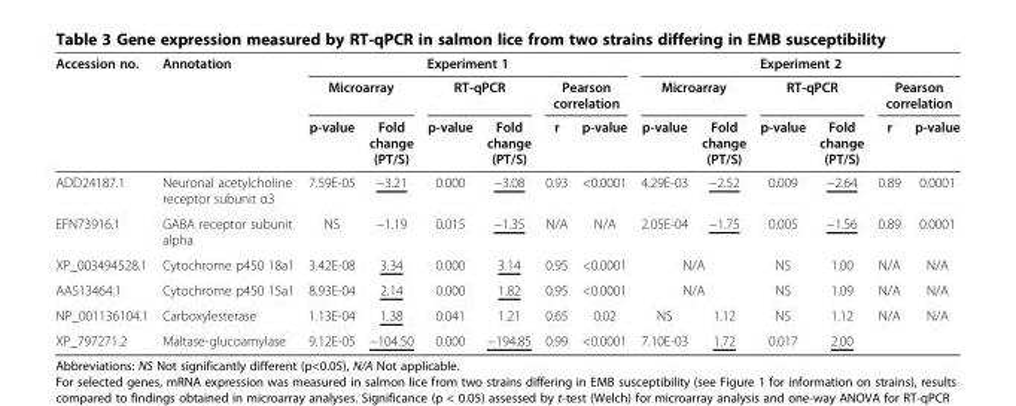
<table><thead><tr><td rowspan="3">Accession no.</td><td rowspan="3">Annotation</td><td colspan="6">Experiment 1</td><td colspan="6">Experiment 2</td></tr><tr><td colspan="2">Microarray</td><td colspan="2">RT-qPCR</td><td colspan="2">Pearson correlation</td><td colspan="2">Microarray</td><td colspan="2">RT-qPCR</td><td colspan="2">Pearson correlation</td></tr><tr><td>p-value</td><td>Fold change (PT/S)</td><td>p-value</td><td>Fold change (PT/S)</td><td>r</td><td>p-value</td><td>p-value</td><td>Fold change (PT/S)</td><td>p-value</td><td>Fold change (PT/S)</td><td>r</td><td>p-value</td></tr></thead><tbody><tr><td>ADD24187.1</td><td>Neuronal acetylcholine receptor subunit α3</td><td>7.59E-05</td><td>−3.21</td><td>0.000</td><td>−3.08</td><td>0.93</td><td>&lt;0.0001</td><td>4.29E-03</td><td>−2.52</td><td>0.009</td><td>−2.64</td><td>0.89</td><td>0.0001</td></tr><tr><td>EFN73916.1</td><td>GABA receptor subunit alpha</td><td>NS</td><td>−1.19</td><td>0.015</td><td>−1.35</td><td>N/A</td><td>N/A</td><td>2.05E-04</td><td>−1.75</td><td>0.005</td><td>−1.56</td><td>0.89</td><td>0.0001</td></tr><tr><td>XP_003494528.1</td><td>Cytochrome p450 18a1</td><td>3.42E-08</td><td>3.34</td><td>0.000</td><td>3.14</td><td>0.95</td><td>&lt;0.0001</td><td colspan="2">N/A</td><td>NS</td><td>1.00</td><td>N/A</td><td>N/A</td></tr><tr><td>AAS13464.1</td><td>Cytochrome p450 15a1</td><td>8.93E-04</td><td>2.14</td><td>0.000</td><td>1.82</td><td>0.95</td><td>&lt;0.0001</td><td colspan="2">N/A</td><td>NS</td><td>1.09</td><td>N/A</td><td>N/A</td></tr><tr><td>NP_001136104.1</td><td>Carboxylesterase</td><td>1.13E-04</td><td>1.38</td><td>0.041</td><td>1.21</td><td>0.65</td><td>0.02</td><td>NS</td><td>1.12</td><td>NS</td><td>1.12</td><td>N/A</td><td>N/A</td></tr><tr><td>XP_797271.2</td><td>Maltase-glucoamylase</td><td>9.12E-05</td><td>−104.50</td><td>0.000</td><td>−194.85</td><td>0.99</td><td>&lt;0.0001</td><td>7.10E-03</td><td>1.72</td><td>0.017</td><td>2.00</td><td></td><td></td></tr></tbody></table>